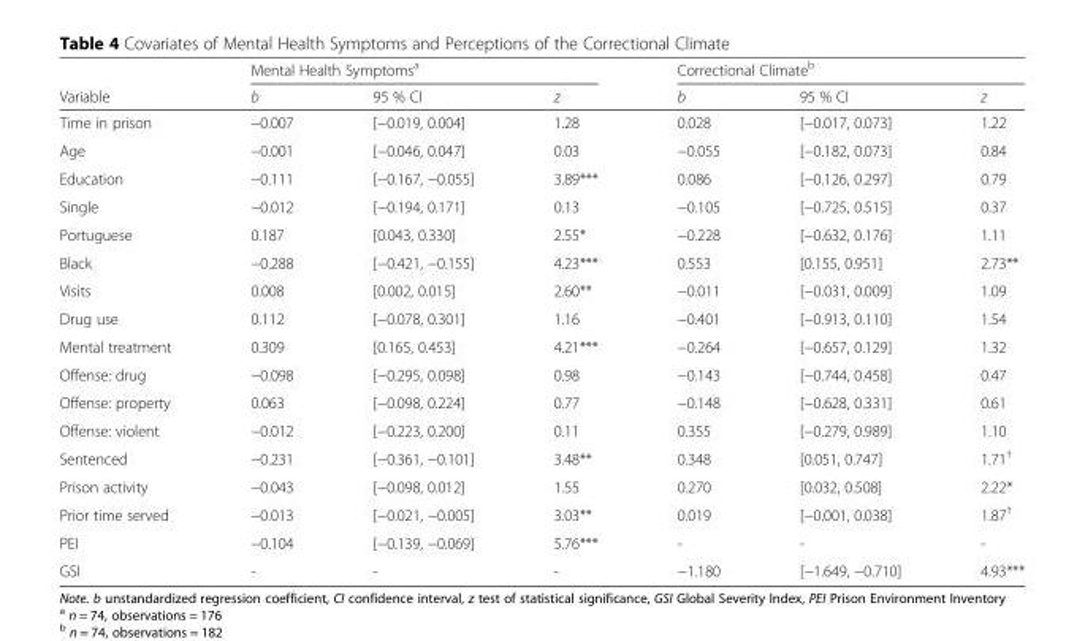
<table><thead><tr><td rowspan="2">Variable</td><td colspan="3">Mental Health Symptoms<sup>a</sup></td><td colspan="3">Correctional Climate<sup>b</sup></td></tr><tr><td>b</td><td>95 % CI</td><td>z</td><td>b</td><td>95 % CI</td><td>z</td></tr></thead><tbody><tr><td>Time in prison</td><td>−0.007</td><td>[−0.019, 0.004]</td><td>1.28</td><td>0.028</td><td>[−0.017, 0.073]</td><td>1.22</td></tr><tr><td>Age</td><td>−0.001</td><td>[−0.046, 0.047]</td><td>0.03</td><td>−0.055</td><td>[−0.182, 0.073]</td><td>0.84</td></tr><tr><td>Education</td><td>−0.111</td><td>[−0.167, −0.055]</td><td>3.89***</td><td>0.086</td><td>[−0.126, 0.297]</td><td>0.79</td></tr><tr><td>Single</td><td>−0.012</td><td>[−0.194, 0.171]</td><td>0.13</td><td>−0.105</td><td>[−0.725, 0.515]</td><td>0.37</td></tr><tr><td>Portuguese</td><td>0.187</td><td>[0.043, 0.330]</td><td>2.55*</td><td>−0.228</td><td>[−0.632, 0.176]</td><td>1.11</td></tr><tr><td>Black</td><td>−0.288</td><td>[−0.421, −0.155]</td><td>4.23***</td><td>0.553</td><td>[0.155, 0.951]</td><td>2.73**</td></tr><tr><td>Visits</td><td>0.008</td><td>[0.002, 0.015]</td><td>2.60**</td><td>−0.011</td><td>[−0.031, 0.009]</td><td>1.09</td></tr><tr><td>Drug use</td><td>0.112</td><td>[−0.078, 0.301]</td><td>1.16</td><td>−0.401</td><td>[−0.913, 0.110]</td><td>1.54</td></tr><tr><td>Mental treatment</td><td>0.309</td><td>[0.165, 0.453]</td><td>4.21***</td><td>−0.264</td><td>[−0.657, 0.129]</td><td>1.32</td></tr><tr><td>Offense: drug</td><td>−0.098</td><td>[−0.295, 0.098]</td><td>0.98</td><td>−0.143</td><td>[−0.744, 0.458]</td><td>0.47</td></tr><tr><td>Offense: property</td><td>0.063</td><td>[−0.098, 0.224]</td><td>0.77</td><td>−0.148</td><td>[−0.628, 0.331]</td><td>0.61</td></tr><tr><td>Offense: violent</td><td>−0.012</td><td>[−0.223, 0.200]</td><td>0.11</td><td>0.355</td><td>[−0.279, 0.989]</td><td>1.10</td></tr><tr><td>Sentenced</td><td>−0.231</td><td>[−0.361, −0.101]</td><td>3.48**</td><td>0.348</td><td>[0.051, 0.747]</td><td>1.71<sup>†</sup></td></tr><tr><td>Prison activity</td><td>−0.043</td><td>[−0.098, 0.012]</td><td>1.55</td><td>0.270</td><td>[0.032, 0.508]</td><td>2.22*</td></tr><tr><td>Prior time served</td><td>−0.013</td><td>[−0.021, −0.005]</td><td>3.03**</td><td>0.019</td><td>[−0.001, 0.038]</td><td>1.87<sup>†</sup></td></tr><tr><td>PEI</td><td>−0.104</td><td>[−0.139, −0.069]</td><td>5.76***</td><td>-</td><td>-</td><td>-</td></tr><tr><td>GSI</td><td>-</td><td>-</td><td>-</td><td>−1.180</td><td>[−1.649, −0.710]</td><td>4.93***</td></tr></tbody></table>